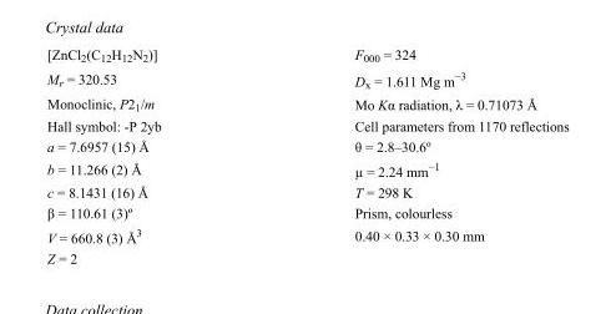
<table><tbody><tr><td>[ZnCl<sub>2</sub>(C<sub>12</sub>H<sub>12</sub>N<sub>2</sub>)]</td><td>F000 = 324</td></tr><tr><td>M<sub>r</sub> = 320.53</td><td>D<sub>x</sub> = 1.611 Mg m<sup>−3</sup></td></tr><tr><td>Monoclinic, P2<sub>1</sub>/m</td><td>Mo Kα radiation, λ = 0.71073 Å</td></tr><tr><td>Hall symbol: -P 2yb</td><td>Cell parameters from 1170 reflections</td></tr><tr><td>a = 7.6957 (15) Å</td><td>θ = 2.8–30.6º</td></tr><tr><td>b = 11.266 (2) Å</td><td>µ = 2.24 mm<sup>−1</sup></td></tr><tr><td>c = 8.1431 (16) Å</td><td>T = 298 K</td></tr><tr><td>β = 110.61 (3)º</td><td>Prism, colourless</td></tr><tr><td>V = 660.8 (3) Å<sup>3</sup></td><td>0.40 × 0.33 × 0.30 mm</td></tr><tr><td>Z = 2</td><td></td></tr></tbody></table>